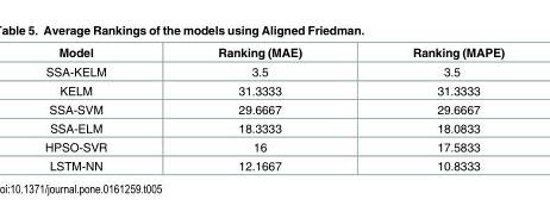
<table><thead><tr><td>Model</td><td>Ranking (MAE)</td><td>Ranking (MAPE)</td></tr></thead><tbody><tr><td>SSA-KELM</td><td>3.5</td><td>3.5</td></tr><tr><td>KELM</td><td>31.3333</td><td>31.3333</td></tr><tr><td>SSA-SVM</td><td>29.6667</td><td>29.6667</td></tr><tr><td>SSA-ELM</td><td>18.3333</td><td>18.0833</td></tr><tr><td>HPSO-SVR</td><td>16</td><td>17.5833</td></tr><tr><td>LSTM-NN</td><td>12.1667</td><td>10.8333</td></tr></tbody></table>